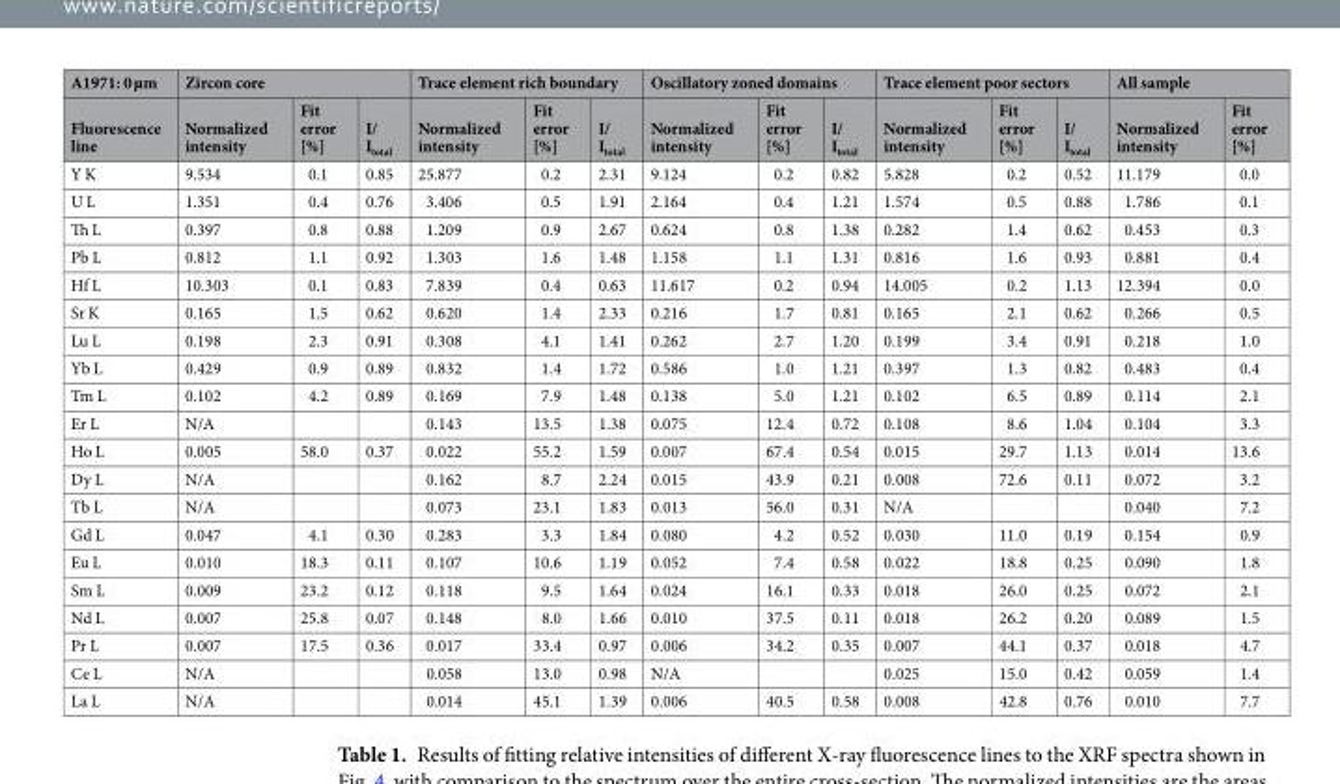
<table><thead><tr><td rowspan="2">A1971: 0 µm Fluorescence line</td><td colspan="3">Zircon core</td><td colspan="3">Trace element rich boundary</td><td colspan="3">Oscillatory zoned domains</td><td colspan="3">Trace element poor sectors</td><td colspan="2">All sample</td></tr><tr><td>Normalized intensity</td><td>Fit error [%]</td><td>I/ I<sub>total</sub></td><td>Normalized intensity</td><td>Fit error [%]</td><td>I/ I<sub>total</sub></td><td>Normalized intensity</td><td>Fit error [%]</td><td>I/ I<sub>total</sub></td><td>Normalized intensity</td><td>Fit error [%]</td><td>I/ I<sub>total</sub></td><td>Normalized intensity</td><td>Fit error [%]</td></tr></thead><tbody><tr><td>Y K</td><td>9.534</td><td>0.1</td><td>0.85</td><td>25.877</td><td>0.2</td><td>2.31</td><td>9.124</td><td>0.2</td><td>0.82</td><td>5.828</td><td>0.2</td><td>0.52</td><td>11.179</td><td>0.0</td></tr><tr><td>U L</td><td>1.351</td><td>0.4</td><td>0.76</td><td>3.406</td><td>0.5</td><td>1.91</td><td>2.164</td><td>0.4</td><td>1.21</td><td>1.574</td><td>0.5</td><td>0.88</td><td>1.786</td><td>0.1</td></tr><tr><td>Th L</td><td>0.397</td><td>0.8</td><td>0.88</td><td>1.209</td><td>0.9</td><td>2.67</td><td>0.624</td><td>0.8</td><td>1.38</td><td>0.282</td><td>1.4</td><td>0.62</td><td>0.453</td><td>0.3</td></tr><tr><td>Pb L</td><td>0.812</td><td>1.1</td><td>0.92</td><td>1.303</td><td>1.6</td><td>1.48</td><td>1.158</td><td>1.1</td><td>1.31</td><td>0.816</td><td>1.6</td><td>0.93</td><td>0.881</td><td>0.4</td></tr><tr><td>Hf L</td><td>10.303</td><td>0.1</td><td>0.83</td><td>7.839</td><td>0.4</td><td>0.63</td><td>11.617</td><td>0.2</td><td>0.94</td><td>14.005</td><td>0.2</td><td>1.13</td><td>12.394</td><td>0.0</td></tr><tr><td>Sr K</td><td>0.165</td><td>1.5</td><td>0.62</td><td>0.620</td><td>1.4</td><td>2.33</td><td>0.216</td><td>1.7</td><td>0.81</td><td>0.165</td><td>2.1</td><td>0.62</td><td>0.266</td><td>0.5</td></tr><tr><td>Lu L</td><td>0.198</td><td>2.3</td><td>0.91</td><td>0.308</td><td>4.1</td><td>1.41</td><td>0.262</td><td>2.7</td><td>1.20</td><td>0.199</td><td>3.4</td><td>0.91</td><td>0.218</td><td>1.0</td></tr><tr><td>Yb L</td><td>0.429</td><td>0.9</td><td>0.89</td><td>0.832</td><td>1.4</td><td>1.72</td><td>0.586</td><td>1.0</td><td>1.21</td><td>0.397</td><td>1.3</td><td>0.82</td><td>0.483</td><td>0.4</td></tr><tr><td>Tm L</td><td>0.102</td><td>4.2</td><td>0.89</td><td>0.169</td><td>7.9</td><td>1.48</td><td>0.138</td><td>5.0</td><td>1.21</td><td>0.102</td><td>6.5</td><td>0.89</td><td>0.114</td><td>2.1</td></tr><tr><td>Er L</td><td>N/A</td><td></td><td></td><td>0.143</td><td>13.5</td><td>1.38</td><td>0.075</td><td>12.4</td><td>0.72</td><td>0.108</td><td>8.6</td><td>1.04</td><td>0.104</td><td>3.3</td></tr><tr><td>Ho L</td><td>0.005</td><td>58.0</td><td>0.37</td><td>0.022</td><td>55.2</td><td>1.59</td><td>0.007</td><td>67.4</td><td>0.54</td><td>0.015</td><td>29.7</td><td>1.13</td><td>0.014</td><td>13.6</td></tr><tr><td>Dy L</td><td>N/A</td><td></td><td></td><td>0.162</td><td>8.7</td><td>2.24</td><td>0.015</td><td>43.9</td><td>0.21</td><td>0.008</td><td>72.6</td><td>0.11</td><td>0.072</td><td>3.2</td></tr><tr><td>Tb L</td><td>N/A</td><td></td><td></td><td>0.073</td><td>23.1</td><td>1.83</td><td>0.013</td><td>56.0</td><td>0.31</td><td>N/A</td><td></td><td></td><td>0.040</td><td>7.2</td></tr><tr><td>Gd L</td><td>0.047</td><td>4.1</td><td>0.30</td><td>0.283</td><td>3.3</td><td>1.84</td><td>0.080</td><td>4.2</td><td>0.52</td><td>0.030</td><td>11.0</td><td>0.19</td><td>0.154</td><td>0.9</td></tr><tr><td>Eu L</td><td>0.010</td><td>18.3</td><td>0.11</td><td>0.107</td><td>10.6</td><td>1.19</td><td>0.052</td><td>7.4</td><td>0.58</td><td>0.022</td><td>18.8</td><td>0.25</td><td>0.090</td><td>1.8</td></tr><tr><td>Sm L</td><td>0.009</td><td>23.2</td><td>0.12</td><td>0.118</td><td>9.5</td><td>1.64</td><td>0.024</td><td>16.1</td><td>0.33</td><td>0.018</td><td>26.0</td><td>0.25</td><td>0.072</td><td>2.1</td></tr><tr><td>Nd L</td><td>0.007</td><td>25.8</td><td>0.07</td><td>0.148</td><td>8.0</td><td>1.66</td><td>0.010</td><td>37.5</td><td>0.11</td><td>0.018</td><td>26.2</td><td>0.20</td><td>0.089</td><td>1.5</td></tr><tr><td>Pr L</td><td>0.007</td><td>17.5</td><td>0.36</td><td>0.017</td><td>33.4</td><td>0.97</td><td>0.006</td><td>34.2</td><td>0.35</td><td>0.007</td><td>44.1</td><td>0.37</td><td>0.018</td><td>4.7</td></tr><tr><td>Ce L</td><td>N/A</td><td></td><td></td><td>0.058</td><td>13.0</td><td>0.98</td><td>N/A</td><td></td><td></td><td>0.025</td><td>15.0</td><td>0.42</td><td>0.059</td><td>1.4</td></tr><tr><td>La L</td><td>N/A</td><td></td><td></td><td>0.014</td><td>45.1</td><td>1.39</td><td>0.006</td><td>40.5</td><td>0.58</td><td>0.008</td><td>42.8</td><td>0.76</td><td>0.010</td><td>7.7</td></tr></tbody></table>